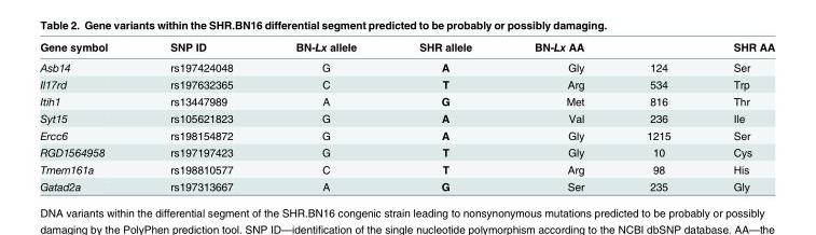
<table><thead><tr><td>Gene symbol</td><td>SNP ID</td><td>BN-Lx allele</td><td>SHR allele</td><td>BN-Lx AA</td><td></td><td>SHR AA</td></tr></thead><tbody><tr><td>Asb14</td><td>rs197424048</td><td>G</td><td>A</td><td>Gly</td><td>124</td><td>Ser</td></tr><tr><td>Il17rd</td><td>rs197632365</td><td>C</td><td>T</td><td>Arg</td><td>534</td><td>Trp</td></tr><tr><td>Itih1</td><td>rs13447989</td><td>A</td><td>G</td><td>Met</td><td>816</td><td>Thr</td></tr><tr><td>Syt15</td><td>rs105621823</td><td>G</td><td>A</td><td>Val</td><td>236</td><td>Ile</td></tr><tr><td>Ercc6</td><td>rs198154872</td><td>G</td><td>A</td><td>Gly</td><td>1215</td><td>Ser</td></tr><tr><td>RGD1564958</td><td>rs197197423</td><td>G</td><td>T</td><td>Gly</td><td>10</td><td>Cys</td></tr><tr><td>Tmem161a</td><td>rs198810577</td><td>C</td><td>T</td><td>Arg</td><td>98</td><td>His</td></tr><tr><td>Gatad2a</td><td>rs197313667</td><td>A</td><td>G</td><td>Ser</td><td>235</td><td>Gly</td></tr></tbody></table>